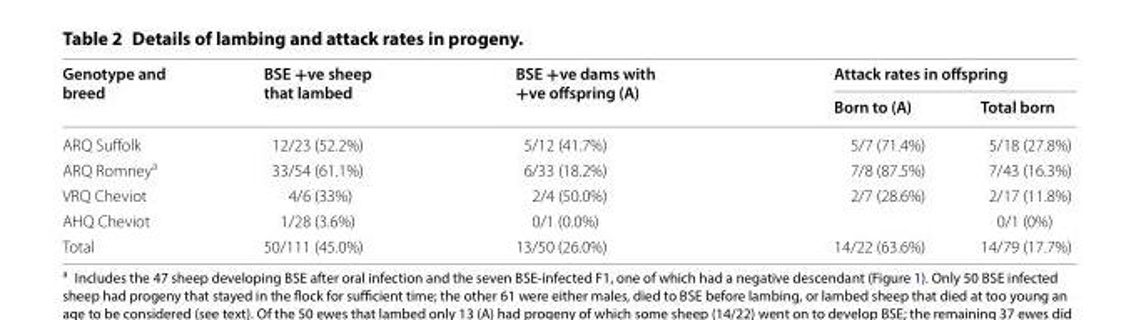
<table><thead><tr><td rowspan="2">Genotype and breed</td><td rowspan="2">BSE +ve sheep that lambed</td><td rowspan="2">BSE +ve dams with +ve offspring (A)</td><td colspan="2">Attack rates in offspring</td></tr><tr><td>Born to (A)</td><td>Total born</td></tr></thead><tbody><tr><td>ARQ Suffolk</td><td>12/23 (52.2%)</td><td>5/12 (41.7%)</td><td>5/7 (71.4%)</td><td>5/18 (27.8%)</td></tr><tr><td>ARQ Romney<sup>a</sup></td><td>33/54 (61.1%)</td><td>6/33 (18.2%)</td><td>7/8 (87.5%)</td><td>7/43 (16.3%)</td></tr><tr><td>VRQ Cheviot</td><td>4/6 (33%)</td><td>2/4 (50.0%)</td><td>2/7 (28.6%)</td><td>2/17 (11.8%)</td></tr><tr><td>AHQ Cheviot</td><td>1/28 (3.6%)</td><td>0/1 (0.0%)</td><td></td><td>0/1 (0%)</td></tr><tr><td>Total</td><td>50/111 (45.0%)</td><td>13/50 (26.0%)</td><td>14/22 (63.6%)</td><td>14/79 (17.7%)</td></tr></tbody></table>